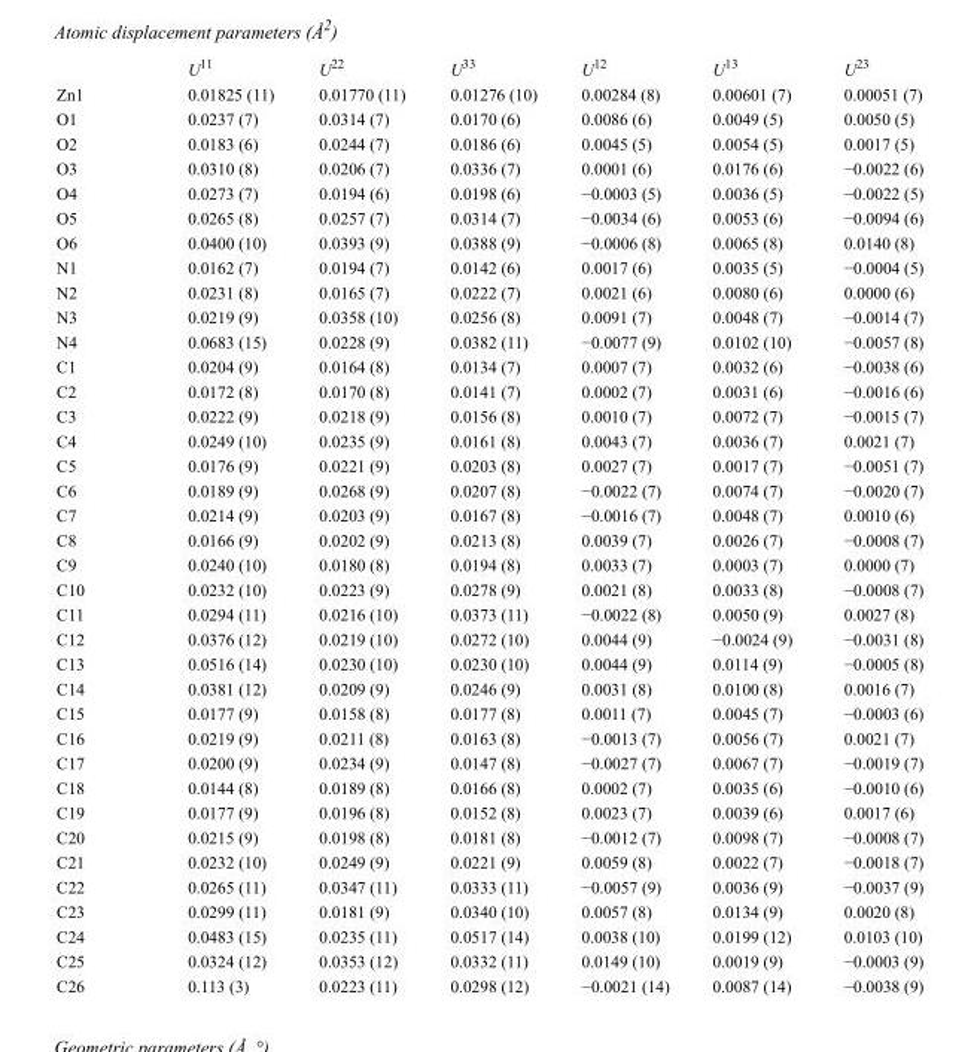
<table><thead><tr><td></td><td>U<sup>11</sup></td><td>U<sup>22</sup></td><td>U<sup>33</sup></td><td>U<sup>12</sup></td><td>U<sup>13</sup></td><td>U<sup>23</sup></td></tr></thead><tbody><tr><td>Zn1</td><td>0.01825 (11)</td><td>0.01770 (11)</td><td>0.01276 (10)</td><td>0.00284 (8)</td><td>0.00601 (7)</td><td>0.00051 (7)</td></tr><tr><td>O1</td><td>0.0237 (7)</td><td>0.0314 (7)</td><td>0.0170 (6)</td><td>0.0086 (6)</td><td>0.0049 (5)</td><td>0.0050 (5)</td></tr><tr><td>O2</td><td>0.0183 (6)</td><td>0.0244 (7)</td><td>0.0186 (6)</td><td>0.0045 (5)</td><td>0.0054 (5)</td><td>0.0017 (5)</td></tr><tr><td>O3</td><td>0.0310 (8)</td><td>0.0206 (7)</td><td>0.0336 (7)</td><td>0.0001 (6)</td><td>0.0176 (6)</td><td>−0.0022 (6)</td></tr><tr><td>O4</td><td>0.0273 (7)</td><td>0.0194 (6)</td><td>0.0198 (6)</td><td>−0.0003 (5)</td><td>0.0036 (5)</td><td>−0.0022 (5)</td></tr><tr><td>O5</td><td>0.0265 (8)</td><td>0.0257 (7)</td><td>0.0314 (7)</td><td>−0.0034 (6)</td><td>0.0053 (6)</td><td>−0.0094 (6)</td></tr><tr><td>O6</td><td>0.0400 (10)</td><td>0.0393 (9)</td><td>0.0388 (9)</td><td>−0.0006 (8)</td><td>0.0065 (8)</td><td>0.0140 (8)</td></tr><tr><td>N1</td><td>0.0162 (7)</td><td>0.0194 (7)</td><td>0.0142 (6)</td><td>0.0017 (6)</td><td>0.0035 (5)</td><td>−0.0004 (5)</td></tr><tr><td>N2</td><td>0.0231 (8)</td><td>0.0165 (7)</td><td>0.0222 (7)</td><td>0.0021 (6)</td><td>0.0080 (6)</td><td>0.0000 (6)</td></tr><tr><td>N3</td><td>0.0219 (9)</td><td>0.0358 (10)</td><td>0.0256 (8)</td><td>0.0091 (7)</td><td>0.0048 (7)</td><td>−0.0014 (7)</td></tr><tr><td>N4</td><td>0.0683 (15)</td><td>0.0228 (9)</td><td>0.0382 (11)</td><td>−0.0077 (9)</td><td>0.0102 (10)</td><td>−0.0057 (8)</td></tr><tr><td>C1</td><td>0.0204 (9)</td><td>0.0164 (8)</td><td>0.0134 (7)</td><td>0.0007 (7)</td><td>0.0032 (6)</td><td>−0.0038 (6)</td></tr><tr><td>C2</td><td>0.0172 (8)</td><td>0.0170 (8)</td><td>0.0141 (7)</td><td>0.0002 (7)</td><td>0.0031 (6)</td><td>−0.0016 (6)</td></tr><tr><td>C3</td><td>0.0222 (9)</td><td>0.0218 (9)</td><td>0.0156 (8)</td><td>0.0010 (7)</td><td>0.0072 (7)</td><td>−0.0015 (7)</td></tr><tr><td>C4</td><td>0.0249 (10)</td><td>0.0235 (9)</td><td>0.0161 (8)</td><td>0.0043 (7)</td><td>0.0036 (7)</td><td>0.0021 (7)</td></tr><tr><td>C5</td><td>0.0176 (9)</td><td>0.0221 (9)</td><td>0.0203 (8)</td><td>0.0027 (7)</td><td>0.0017 (7)</td><td>−0.0051 (7)</td></tr><tr><td>C6</td><td>0.0189 (9)</td><td>0.0268 (9)</td><td>0.0207 (8)</td><td>−0.0022 (7)</td><td>0.0074 (7)</td><td>−0.0020 (7)</td></tr><tr><td>C7</td><td>0.0214 (9)</td><td>0.0203 (9)</td><td>0.0167 (8)</td><td>−0.0016 (7)</td><td>0.0048 (7)</td><td>0.0010 (6)</td></tr><tr><td>C8</td><td>0.0166 (9)</td><td>0.0202 (9)</td><td>0.0213 (8)</td><td>0.0039 (7)</td><td>0.0026 (7)</td><td>−0.0008 (7)</td></tr><tr><td>C9</td><td>0.0240 (10)</td><td>0.0180 (8)</td><td>0.0194 (8)</td><td>0.0033 (7)</td><td>0.0003 (7)</td><td>0.0000 (7)</td></tr><tr><td>C10</td><td>0.0232 (10)</td><td>0.0223 (9)</td><td>0.0278 (9)</td><td>0.0021 (8)</td><td>0.0033 (8)</td><td>−0.0008 (7)</td></tr><tr><td>C11</td><td>0.0294 (11)</td><td>0.0216 (10)</td><td>0.0373 (11)</td><td>−0.0022 (8)</td><td>0.0050 (9)</td><td>0.0027 (8)</td></tr><tr><td>C12</td><td>0.0376 (12)</td><td>0.0219 (10)</td><td>0.0272 (10)</td><td>0.0044 (9)</td><td>−0.0024 (9)</td><td>−0.0031 (8)</td></tr><tr><td>C13</td><td>0.0516 (14)</td><td>0.0230 (10)</td><td>0.0230 (10)</td><td>0.0044 (9)</td><td>0.0114 (9)</td><td>−0.0005 (8)</td></tr><tr><td>C14</td><td>0.0381 (12)</td><td>0.0209 (9)</td><td>0.0246 (9)</td><td>0.0031 (8)</td><td>0.0100 (8)</td><td>0.0016 (7)</td></tr><tr><td>C15</td><td>0.0177 (9)</td><td>0.0158 (8)</td><td>0.0177 (8)</td><td>0.0011 (7)</td><td>0.0045 (7)</td><td>−0.0003 (6)</td></tr><tr><td>C16</td><td>0.0219 (9)</td><td>0.0211 (8)</td><td>0.0163 (8)</td><td>−0.0013 (7)</td><td>0.0056 (7)</td><td>0.0021 (7)</td></tr><tr><td>C17</td><td>0.0200 (9)</td><td>0.0234 (9)</td><td>0.0147 (8)</td><td>−0.0027 (7)</td><td>0.0067 (7)</td><td>−0.0019 (7)</td></tr><tr><td>C18</td><td>0.0144 (8)</td><td>0.0189 (8)</td><td>0.0166 (8)</td><td>0.0002 (7)</td><td>0.0035 (6)</td><td>−0.0010 (6)</td></tr><tr><td>C19</td><td>0.0177 (9)</td><td>0.0196 (8)</td><td>0.0152 (8)</td><td>0.0023 (7)</td><td>0.0039 (6)</td><td>0.0017 (6)</td></tr><tr><td>C20</td><td>0.0215 (9)</td><td>0.0198 (8)</td><td>0.0181 (8)</td><td>−0.0012 (7)</td><td>0.0098 (7)</td><td>−0.0008 (7)</td></tr><tr><td>C21</td><td>0.0232 (10)</td><td>0.0249 (9)</td><td>0.0221 (9)</td><td>0.0059 (8)</td><td>0.0022 (7)</td><td>−0.0018 (7)</td></tr><tr><td>C22</td><td>0.0265 (11)</td><td>0.0347 (11)</td><td>0.0333 (11)</td><td>−0.0057 (9)</td><td>0.0036 (9)</td><td>−0.0037 (9)</td></tr><tr><td>C23</td><td>0.0299 (11)</td><td>0.0181 (9)</td><td>0.0340 (10)</td><td>0.0057 (8)</td><td>0.0134 (9)</td><td>0.0020 (8)</td></tr><tr><td>C24</td><td>0.0483 (15)</td><td>0.0235 (11)</td><td>0.0517 (14)</td><td>0.0038 (10)</td><td>0.0199 (12)</td><td>0.0103 (10)</td></tr><tr><td>C25</td><td>0.0324 (12)</td><td>0.0353 (12)</td><td>0.0332 (11)</td><td>0.0149 (10)</td><td>0.0019 (9)</td><td>−0.0003 (9)</td></tr><tr><td>C26</td><td>0.113 (3)</td><td>0.0223 (11)</td><td>0.0298 (12)</td><td>−0.0021 (14)</td><td>0.0087 (14)</td><td>−0.0038 (9)</td></tr></tbody></table>